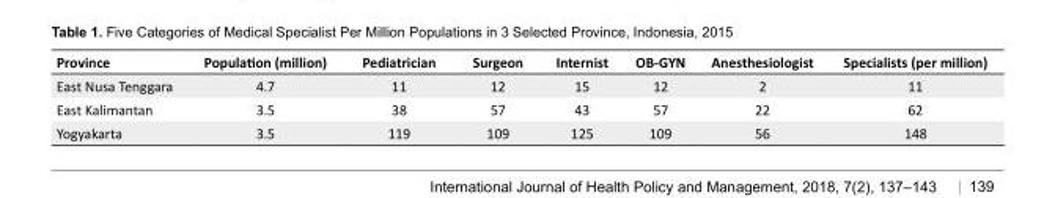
<table><tbody><tr><td>Province</td><td>Population (million)</td><td>Pediatrician</td><td>Surgeon</td><td>Internist</td><td>OB-GYN</td><td>Anesthesiologist</td><td>Specialists (per million)</td></tr><tr><td>East Nusa Tenggara</td><td>4.7</td><td>11</td><td>12</td><td>15</td><td>12</td><td>2</td><td>11</td></tr><tr><td>East Kalimantan</td><td>3.5</td><td>38</td><td>57</td><td>43</td><td>57</td><td>22</td><td>62</td></tr><tr><td>Yogyakarta</td><td>3.5</td><td>119</td><td>109</td><td>125</td><td>109</td><td>56</td><td>148</td></tr></tbody></table>